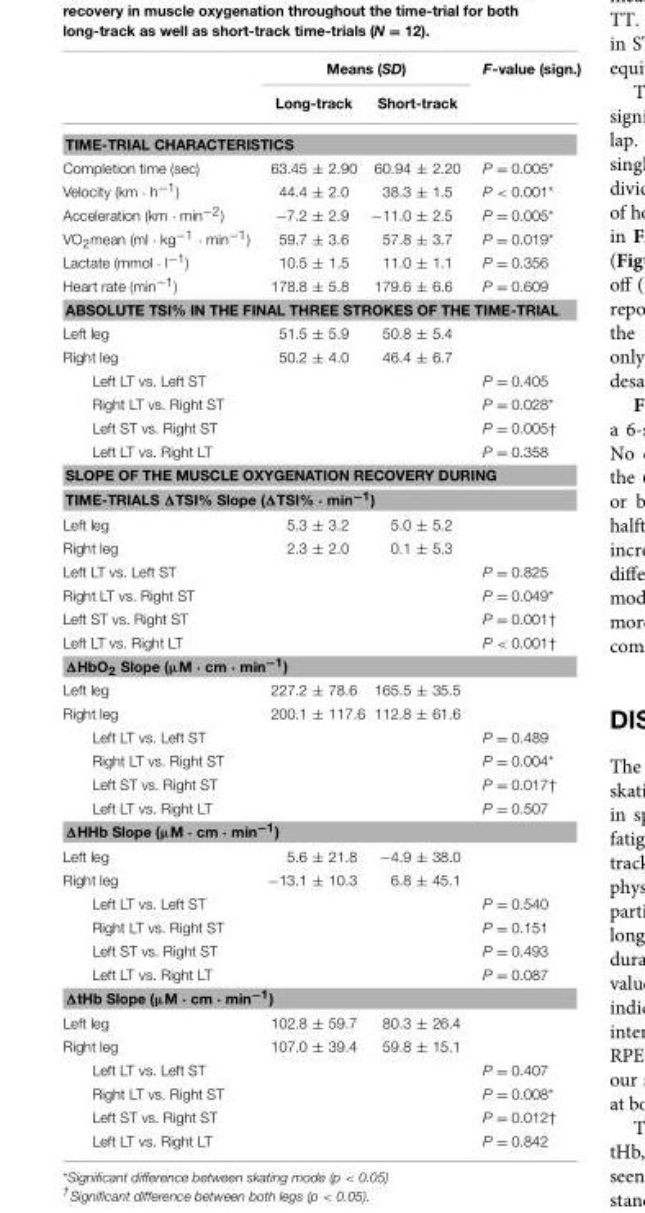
<table><thead><tr><td rowspan="2"></td><td colspan="2">Means (SD)</td><td rowspan="2">F-value (sign.)</td></tr><tr><td>Long-track</td><td>Short-track</td></tr></thead><tbody><tr><td colspan="4">TIME-TRIAL CHARACTERISTICS</td></tr><tr><td>Completion time (sec)</td><td>63.45 ± 2.90</td><td>60.94 ± 2.20</td><td>P = 0.005*</td></tr><tr><td>Velocity (km · h<sup>−1</sup>)</td><td>44.4 ± 2.0</td><td>38.3 ± 1.5</td><td>P &lt; 0.001*</td></tr><tr><td>Acceleration (km · min<sup>−2</sup>)</td><td>−7.2 ± 2.9</td><td>−11.0 ± 2.5</td><td>P = 0.005*</td></tr><tr><td>VO<sub>2</sub>mean (ml · kg<sup>−1</sup> · min<sup>−1</sup>)</td><td>59.7 ± 3.6</td><td>57.8 ± 3.7</td><td>P = 0.019*</td></tr><tr><td>Lactate (mmol · l<sup>−1</sup>)</td><td>10.5 ± 1.5</td><td>11.0 ± 1.1</td><td>P = 0.356</td></tr><tr><td>Heart rate (min<sup>−1</sup>)</td><td>178.8 ± 5.8</td><td>179.6 ± 6.6</td><td>P = 0.609</td></tr><tr><td colspan="4">ABSOLUTE TSI% IN THE FINAL THREE STROKES OF THE TIME-TRIAL</td></tr><tr><td>Left leg</td><td>51.5 ± 5.9</td><td>50.8 ± 5.4</td><td></td></tr><tr><td>Right leg</td><td>50.2 ± 4.0</td><td>46.4 ± 6.7</td><td></td></tr><tr><td>Left LT vs. Left ST</td><td></td><td></td><td>P = 0.405</td></tr><tr><td>Right LT vs. Right ST</td><td></td><td></td><td>P = 0.028*</td></tr><tr><td>Left ST vs. Right ST</td><td></td><td></td><td>P = 0.005†</td></tr><tr><td>Left LT vs. Right LT</td><td></td><td></td><td>P = 0.358</td></tr><tr><td colspan="4">SLOPE OF THE MUSCLE OXYGENATION RECOVERY DURING</td></tr><tr><td colspan="4">TIME-TRIALS ΔTSI% Slope (ΔTSI% · min<sup>−1</sup>)</td></tr><tr><td>Left leg</td><td>5.3 ± 3.2</td><td>5.0 ± 5.2</td><td></td></tr><tr><td>Right leg</td><td>2.3 ± 2.0</td><td>0.1 ± 5.3</td><td></td></tr><tr><td>Left LT vs. Left ST</td><td></td><td></td><td>P = 0.825</td></tr><tr><td>Right LT vs. Right ST</td><td></td><td></td><td>P = 0.049*</td></tr><tr><td>Left ST vs. Right ST</td><td></td><td></td><td>P = 0.001†</td></tr><tr><td>Left LT vs. Right LT</td><td></td><td></td><td>P &lt; 0.001†</td></tr><tr><td colspan="4">ΔHbO<sub>2</sub> Slope (µM · cm · min<sup>−1</sup>)</td></tr><tr><td>Left leg</td><td>227.2 ± 78.6</td><td>165.5 ± 35.5</td><td></td></tr><tr><td>Right leg</td><td>200.1 ± 117.6</td><td>112.8 ± 61.6</td><td></td></tr><tr><td>Left LT vs. Left ST</td><td></td><td></td><td>P = 0.489</td></tr><tr><td>Right LT vs. Right ST</td><td></td><td></td><td>P = 0.004*</td></tr><tr><td>Left ST vs. Right ST</td><td></td><td></td><td>P = 0.017†</td></tr><tr><td>Left LT vs. Right LT</td><td></td><td></td><td>P = 0.507</td></tr><tr><td colspan="4">ΔHHb Slope (µM · cm · min<sup>−1</sup>)</td></tr><tr><td>Left leg</td><td>5.6 ± 21.8</td><td>−4.9 ± 38.0</td><td></td></tr><tr><td>Right leg</td><td>−13.1 ± 10.3</td><td>6.8 ± 45.1</td><td></td></tr><tr><td>Left LT vs. Left ST</td><td></td><td></td><td>P = 0.540</td></tr><tr><td>Right LT vs. Right ST</td><td></td><td></td><td>P = 0.151</td></tr><tr><td>Left ST vs. Right ST</td><td></td><td></td><td>P = 0.493</td></tr><tr><td>Left LT vs. Right LT</td><td></td><td></td><td>P = 0.087</td></tr><tr><td colspan="4">ΔtHb Slope (µM · cm · min<sup>−1</sup>)</td></tr><tr><td>Left leg</td><td>102.8 ± 59.7</td><td>80.3 ± 26.4</td><td></td></tr><tr><td>Right leg</td><td>107.0 ± 39.4</td><td>59.8 ± 15.1</td><td></td></tr><tr><td>Left LT vs. Left ST</td><td></td><td></td><td>P = 0.407</td></tr><tr><td>Right LT vs. Right ST</td><td></td><td></td><td>P = 0.008*</td></tr><tr><td>Left ST vs. Right ST</td><td></td><td></td><td>P = 0.012†</td></tr><tr><td>Left LT vs. Right LT</td><td></td><td></td><td>P = 0.842</td></tr></tbody></table>